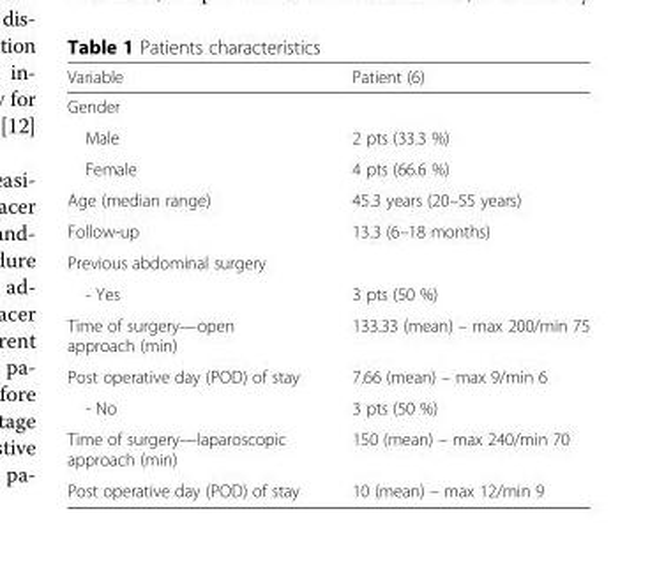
<table><thead><tr><td>Variable</td><td>Patient (6)</td></tr></thead><tbody><tr><td colspan="2">Gender</td></tr><tr><td>Male</td><td>2 pts (33.3 %)</td></tr><tr><td>Female</td><td>4 pts (66.6 %)</td></tr><tr><td>Age (median range)</td><td>45.3 years (20–55 years)</td></tr><tr><td>Follow-up</td><td>13.3 (6–18 months)</td></tr><tr><td colspan="2">Previous abdominal surgery</td></tr><tr><td>- Yes</td><td>3 pts (50 %)</td></tr><tr><td>Time of surgery—open approach (min)</td><td>133.33 (mean) – max 200/min 75</td></tr><tr><td>Post operative day (POD) of stay</td><td>7.66 (mean) – max 9/min 6</td></tr><tr><td>- No</td><td>3 pts (50 %)</td></tr><tr><td>Time of surgery—laparoscopic approach (min)</td><td>150 (mean) – max 240/min 70</td></tr><tr><td>Post operative day (POD) of stay</td><td>10 (mean) – max 12/min 9</td></tr></tbody></table>